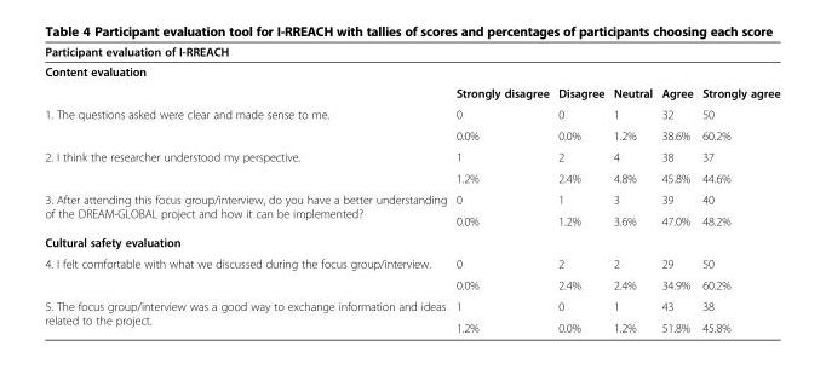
<table><thead><tr><td rowspan="2" colspan="6">Participant evaluation of I-RREACH Content evaluation</td></tr><tr></tr><tr><td></td><td>Strongly disagree</td><td>Disagree</td><td>Neutral</td><td>Agree</td><td>Strongly agree</td></tr></thead><tbody><tr><td rowspan="2">1. The questions asked were clear and made sense to me.</td><td>0</td><td>0</td><td>1</td><td>32</td><td>50</td></tr><tr><td>0.0%</td><td>0.0%</td><td>1.2%</td><td>38.6%</td><td>60.2%</td></tr><tr><td rowspan="2">2. I think the researcher understood my perspective.</td><td>1</td><td>2</td><td>4</td><td>38</td><td>37</td></tr><tr><td>1.2%</td><td>2.4%</td><td>4.8%</td><td>45.8%</td><td>44.6%</td></tr><tr><td rowspan="2">3. After attending this focus group/interview, do you have a better understanding of the DREAM-GLOBAL project and how it can be implemented?</td><td>0</td><td>1</td><td>3</td><td>39</td><td>40</td></tr><tr><td>0.0%</td><td>1.2%</td><td>3.6%</td><td>47.0%</td><td>48.2%</td></tr><tr><td colspan="6">Cultural safety evaluation</td></tr><tr><td rowspan="2">4. I felt comfortable with what we discussed during the focus group/interview.</td><td>0</td><td>2</td><td>2</td><td>29</td><td>50</td></tr><tr><td>0.0%</td><td>2.4%</td><td>2.4%</td><td>34.9%</td><td>60.2%</td></tr><tr><td rowspan="2">5. The focus group/interview was a good way to exchange information and ideas related to the project.</td><td>1</td><td>0</td><td>1</td><td>43</td><td>38</td></tr><tr><td>1.2%</td><td>0.0%</td><td>1.2%</td><td>51.8%</td><td>45.8%</td></tr></tbody></table>